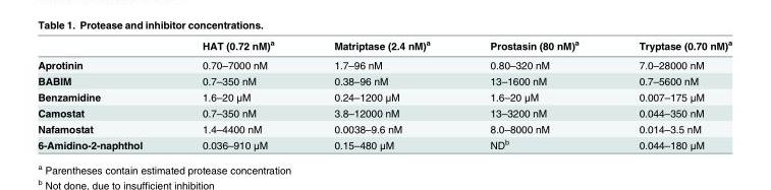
<table><thead><tr><td></td><td>HAT (0.72 nM)<sup>a</sup></td><td>Matriptase (2.4 nM)<sup>a</sup></td><td>Prostasin (80 nM)<sup>a</sup></td><td>Tryptase (0.70 nM)<sup>a</sup></td></tr></thead><tbody><tr><td>Aprotinin</td><td>0.70–7000 nM</td><td>1.7–96 nM</td><td>0.80–320 nM</td><td>7.0–28000 nM</td></tr><tr><td>BABIM</td><td>0.7–350 nM</td><td>0.38–96 nM</td><td>13–1600 nM</td><td>0.7–5600 nM</td></tr><tr><td>Benzamidine</td><td>1.6–20 μM</td><td>0.24–1200 μM</td><td>1.6–20 μM</td><td>0.007–175 μM</td></tr><tr><td>Camostat</td><td>0.7–350 nM</td><td>3.8–12000 nM</td><td>13–3200 nM</td><td>0.044–350 nM</td></tr><tr><td>Nafamostat</td><td>1.4–4400 nM</td><td>0.0038–9.6 nM</td><td>8.0–8000 nM</td><td>0.014–3.5 nM</td></tr><tr><td>6-Amidino-2-naphthol</td><td>0.036–910 μM</td><td>0.15–480 μM</td><td>ND<sup>b</sup></td><td>0.044–180 μM</td></tr></tbody></table>